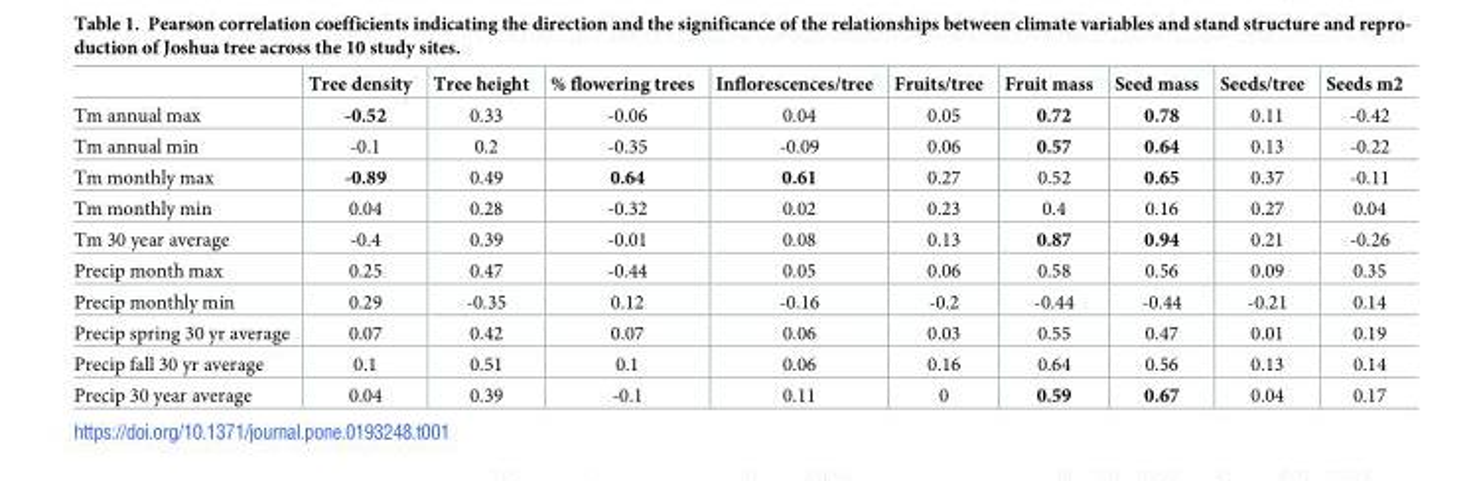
<table><thead><tr><td></td><td>Tree density</td><td>Tree height</td><td>% flowering trees</td><td>Inflorescences/tree</td><td>Fruits/tree</td><td>Fruit mass</td><td>Seed mass</td><td>Seeds/tree</td><td>Seeds m2</td></tr></thead><tbody><tr><td>Tm annual max</td><td>-0.52</td><td>0.33</td><td>-0.06</td><td>0.04</td><td>0.05</td><td>0.72</td><td>0.78</td><td>0.11</td><td>-0.42</td></tr><tr><td>Tm annual min</td><td>-0.1</td><td>0.2</td><td>-0.35</td><td>-0.09</td><td>0.06</td><td>0.57</td><td>0.64</td><td>0.13</td><td>-0.22</td></tr><tr><td>Tm monthly max</td><td>-0.89</td><td>0.49</td><td>0.64</td><td>0.61</td><td>0.27</td><td>0.52</td><td>0.65</td><td>0.37</td><td>-0.11</td></tr><tr><td>Tm monthly min</td><td>0.04</td><td>0.28</td><td>-0.32</td><td>0.02</td><td>0.23</td><td>0.4</td><td>0.16</td><td>0.27</td><td>0.04</td></tr><tr><td>Tm 30 year average</td><td>-0.4</td><td>0.39</td><td>-0.01</td><td>0.08</td><td>0.13</td><td>0.87</td><td>0.94</td><td>0.21</td><td>-0.26</td></tr><tr><td>Precip month max</td><td>0.25</td><td>0.47</td><td>-0.44</td><td>0.05</td><td>0.06</td><td>0.58</td><td>0.56</td><td>0.09</td><td>0.35</td></tr><tr><td>Precip monthly min</td><td>0.29</td><td>-0.35</td><td>0.12</td><td>-0.16</td><td>-0.2</td><td>-0.44</td><td>-0.44</td><td>-0.21</td><td>0.14</td></tr><tr><td>Precip spring 30 yr average</td><td>0.07</td><td>0.42</td><td>0.07</td><td>0.06</td><td>0.03</td><td>0.55</td><td>0.47</td><td>0.01</td><td>0.19</td></tr><tr><td>Precip fall 30 yr average</td><td>0.1</td><td>0.51</td><td>0.1</td><td>0.06</td><td>0.16</td><td>0.64</td><td>0.56</td><td>0.13</td><td>0.14</td></tr><tr><td>Precip 30 year average</td><td>0.04</td><td>0.39</td><td>-0.1</td><td>0.11</td><td>0</td><td>0.59</td><td>0.67</td><td>0.04</td><td>0.17</td></tr></tbody></table>